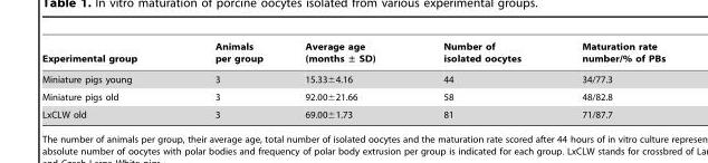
<table><thead><tr><td>Experimental group</td><td>Animals per group</td><td>Average age (months ± SD)</td><td>Number of isolated oocytes</td><td>Maturation rate number/% of PBs</td></tr></thead><tbody><tr><td>Miniature pigs young</td><td>3</td><td>15.33±4.16</td><td>44</td><td>34/77.3</td></tr><tr><td>Miniature pigs old</td><td>3</td><td>92.00±21.66</td><td>58</td><td>48/82.8</td></tr><tr><td>LxCLW old</td><td>3</td><td>69.00±1.73</td><td>81</td><td>71/87.7</td></tr></tbody></table>